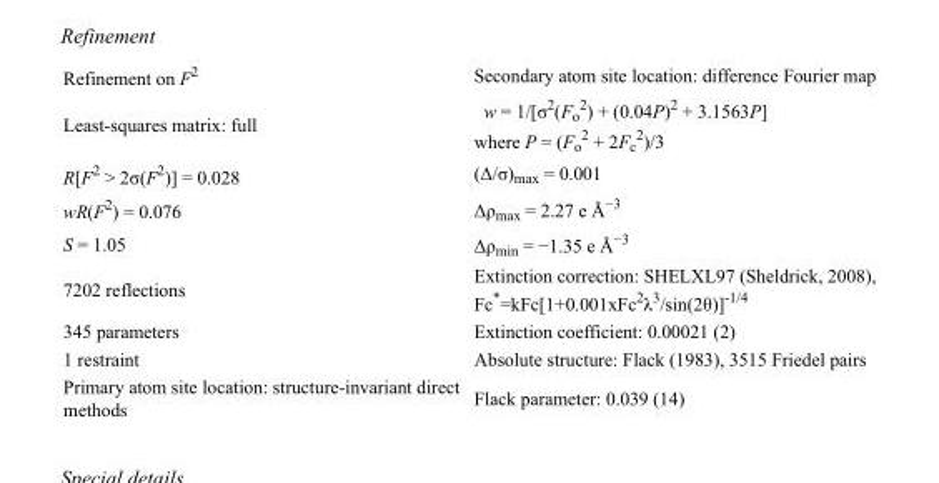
<table><tbody><tr><td>Refinement on F<sup>2</sup></td><td>Secondary atom site location: difference Fourier map</td></tr><tr><td>Least-squares matrix: full</td><td>w = 1/[σ<sup>2</sup>(F<sub>o</sub> <sup>2</sup>) + (0.04P)<sup>2</sup> + 3.1563P] where P = (F<sub>o</sub> <sup>2</sup> + 2F<sub>c</sub> <sup>2</sup>)/3</td></tr><tr><td>R[F<sup>2</sup> &gt; 2σ(F<sup>2</sup>)] = 0.028</td><td>(Δ/σ)<sub>max</sub> = 0.001</td></tr><tr><td>wR(F<sup>2</sup>) = 0.076</td><td>Δρ<sub>max</sub> = 2.27 e Å<sup>−3</sup></td></tr><tr><td>S = 1.05</td><td>Δρ<sub>min</sub> = −1.35 e Å<sup>−3</sup></td></tr><tr><td>7202 reflections</td><td>Extinction correction: SHELXL97 (Sheldrick, 2008), Fc*=kFc[1+0.001xFc<sup>2</sup>λ<sup>3</sup>/sin(2θ)]<sup>-1/4</sup></td></tr><tr><td>345 parameters</td><td>Extinction coefficient: 0.00021 (2)</td></tr><tr><td>1 restraint</td><td>Absolute structure: Flack (1983), 3515 Friedel pairs</td></tr><tr><td>Primary atom site location: structure-invariant direct methods</td><td>Flack parameter: 0.039 (14)</td></tr></tbody></table>